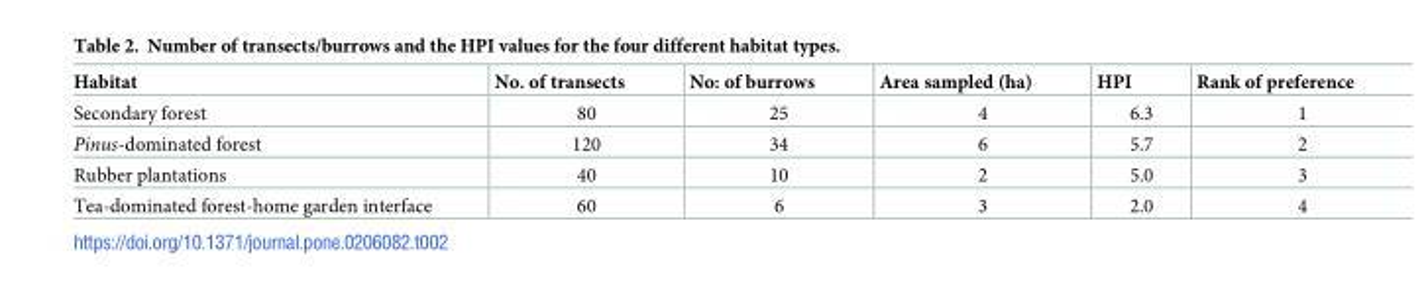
<table><thead><tr><td>Habitat</td><td>No. of transects</td><td>No: of burrows</td><td>Area sampled (ha)</td><td>HPI</td><td>Rank of preference</td></tr></thead><tbody><tr><td>Secondary forest</td><td>80</td><td>25</td><td>4</td><td>6.3</td><td>1</td></tr><tr><td>Pinus-dominated forest</td><td>120</td><td>34</td><td>6</td><td>5.7</td><td>2</td></tr><tr><td>Rubber plantations</td><td>40</td><td>10</td><td>2</td><td>5.0</td><td>3</td></tr><tr><td>Tea-dominated forest-home garden interface</td><td>60</td><td>6</td><td>3</td><td>2.0</td><td>4</td></tr></tbody></table>